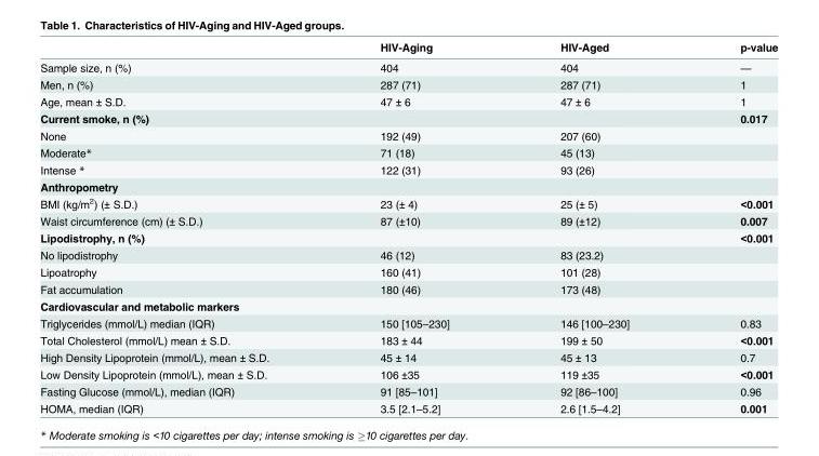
<table><thead><tr><td></td><td>HIV-Aging</td><td>HIV-Aged</td><td>p-value</td></tr></thead><tbody><tr><td>Sample size, n (%)</td><td>404</td><td>404</td><td>—</td></tr><tr><td>Men, n (%)</td><td>287 (71)</td><td>287 (71)</td><td>1</td></tr><tr><td>Age, mean ± S.D.</td><td>47 ± 6</td><td>47 ± 6</td><td>1</td></tr><tr><td>Current smoke, n (%)</td><td></td><td></td><td>0.017</td></tr><tr><td>None</td><td>192 (49)</td><td>207 (60)</td><td></td></tr><tr><td>Moderate*</td><td>71 (18)</td><td>45 (13)</td><td></td></tr><tr><td>Intense *</td><td>122 (31)</td><td>93 (26)</td><td></td></tr><tr><td colspan="4">Anthropometry</td></tr><tr><td>BMI (kg/m<sup>2</sup>) (± S.D.)</td><td>23 (± 4)</td><td>25 (± 5)</td><td>&lt;0.001</td></tr><tr><td>Waist circumference (cm) (± S.D.)</td><td>87 (±10)</td><td>89 (±12)</td><td>0.007</td></tr><tr><td>Lipodistrophy, n (%)</td><td></td><td></td><td>&lt;0.001</td></tr><tr><td>No lipodistrophy</td><td>46 (12)</td><td>83 (23.2)</td><td></td></tr><tr><td>Lipoatrophy</td><td>160 (41)</td><td>101 (28)</td><td></td></tr><tr><td>Fat accumulation</td><td>180 (46)</td><td>173 (48)</td><td></td></tr><tr><td colspan="4">Cardiovascular and metabolic markers</td></tr><tr><td>Triglycerides (mmol/L) median (IQR)</td><td>150 [105–230]</td><td>146 [100–230]</td><td>0.83</td></tr><tr><td>Total Cholesterol (mmol/L) mean ± S.D.</td><td>183 ± 44</td><td>199 ± 50</td><td>&lt;0.001</td></tr><tr><td>High Density Lipoprotein (mmol/L), mean ± S.D.</td><td>45 ± 14</td><td>45 ± 13</td><td>0.7</td></tr><tr><td>Low Density Lipoprotein (mmol/L), mean ± S.D.</td><td>106 ±35</td><td>119 ±35</td><td>&lt;0.001</td></tr><tr><td>Fasting Glucose (mmol/L), median (IQR)</td><td>91 [85–101]</td><td>92 [86–100]</td><td>0.96</td></tr><tr><td>HOMA, median (IQR)</td><td>3.5 [2.1–5.2]</td><td>2.6 [1.5–4.2]</td><td>0.001</td></tr></tbody></table>